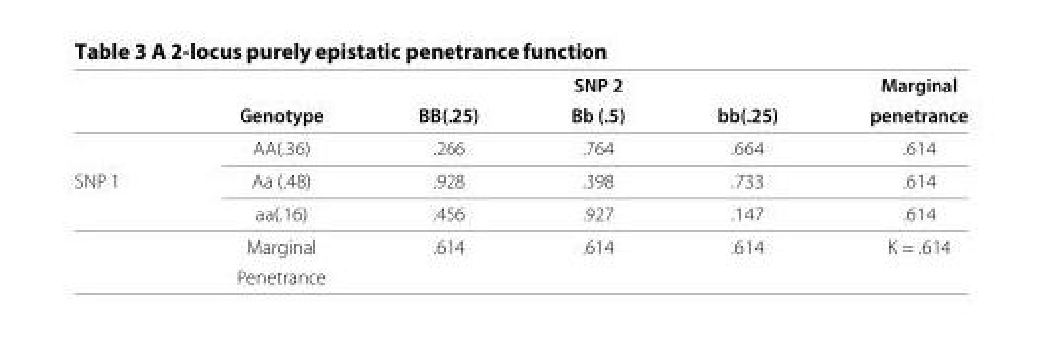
<table><thead><tr><td rowspan="2"></td><td rowspan="2">Genotype</td><td colspan="3">SNP 2</td><td rowspan="2">Marginal penetrance</td></tr><tr><td>BB(.25)</td><td>Bb (.5)</td><td>bb(.25)</td></tr></thead><tbody><tr><td></td><td>AA(.36)</td><td>.266</td><td>.764</td><td>.664</td><td>.614</td></tr><tr><td rowspan="4">SNP 1</td><td>Aa (.48)</td><td>.928</td><td>.398</td><td>.733</td><td>.614</td></tr><tr><td>aa(.16)</td><td>.456</td><td>.927</td><td>.147</td><td>.614</td></tr><tr><td>Marginal</td><td>.614</td><td>.614</td><td>.614</td><td>K = .614</td></tr><tr><td>Penetrance</td><td></td><td></td><td></td><td></td></tr></tbody></table>